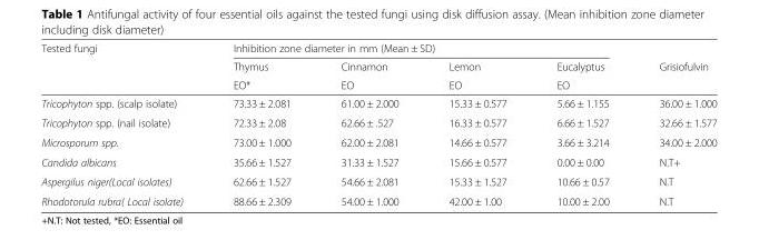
<table><thead><tr><td rowspan="3">Tested fungi</td><td colspan="4">Inhibition zone diameter in mm (Mean ± SD)</td><td rowspan="3">Grisiofulvin</td></tr><tr><td rowspan="2">Thymus EO*</td><td rowspan="2">Cinnamon EO</td><td rowspan="2">Lemon EO</td><td rowspan="2">Eucalyptus EO</td></tr><tr></tr></thead><tbody><tr><td>Tricophyton spp. (scalp isolate)</td><td>73.33 ± 2.081</td><td>61.00 ± 2.000</td><td>15.33 ± 0.577</td><td>5.66 ± 1.155</td><td>36.00 ± 1.000</td></tr><tr><td>Tricophyton spp. (nail isolate)</td><td>72.33 ± 2.08</td><td>62.66 ± .527</td><td>16.33 ± 0.577</td><td>6.66 ± 1.527</td><td>32.66 ± 1.577</td></tr><tr><td>Microsporum spp.</td><td>73.00 ± 1.000</td><td>62.00 ± 2.081</td><td>14.66 ± 0.577</td><td>3.66 ± 3.214</td><td>34.00 ± 2.000</td></tr><tr><td>Candida albicans</td><td>35.66 ± 1.527</td><td>31.33 ± 1.527</td><td>15.66 ± 0.577</td><td>0.00 ± 0.00</td><td>N.T+</td></tr><tr><td>Aspergilus niger(Local isolates)</td><td>62.66 ± 1.527</td><td>54.66 ± 2.081</td><td>15.33 ± 1.527</td><td>10.66 ± 0.57</td><td>N.T</td></tr><tr><td>Rhodotorula rubra( Local isolate)</td><td>88.66 ± 2.309</td><td>54.00 ± 1.000</td><td>42.00 ± 1.00</td><td>10.00 ± 2.00</td><td>N.T</td></tr></tbody></table>